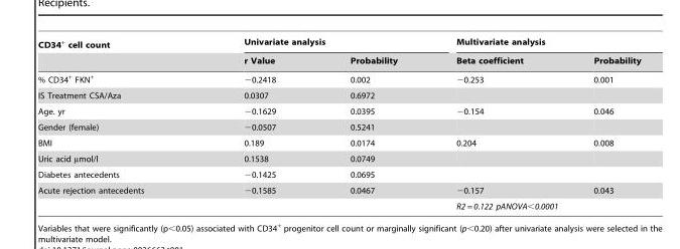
<table><thead><tr><td rowspan="2">CD34<sup>+</sup> cell count</td><td colspan="2">Univariate analysis</td><td colspan="2">Multivariate analysis</td></tr><tr><td>r Value</td><td>Probability</td><td>Beta coefficient</td><td>Probability</td></tr></thead><tbody><tr><td>% CD34<sup>+</sup> FKN<sup>+</sup></td><td>−0.2418</td><td>0.002</td><td>−0.253</td><td>0.001</td></tr><tr><td>IS Treatment CSA/Aza</td><td>0.0307</td><td>0.6972</td><td></td><td></td></tr><tr><td>Age. yr</td><td>−0.1629</td><td>0.0395</td><td>−0.154</td><td>0.046</td></tr><tr><td>Gender (female)</td><td>−0.0507</td><td>0.5241</td><td></td><td></td></tr><tr><td>BMI</td><td>0.189</td><td>0.0174</td><td>0.204</td><td>0.008</td></tr><tr><td>Uric acid µmol/l</td><td>0.1538</td><td>0.0749</td><td></td><td></td></tr><tr><td>Diabetes antecedents</td><td>−0.1425</td><td>0.0695</td><td></td><td></td></tr><tr><td rowspan="2">Acute rejection antecedents</td><td>−0.1585</td><td>0.0467</td><td>−0.157</td><td>0.043</td></tr><tr><td></td><td></td><td colspan="2">R2 = 0.122 pANOVA&lt;0.0001</td></tr></tbody></table>